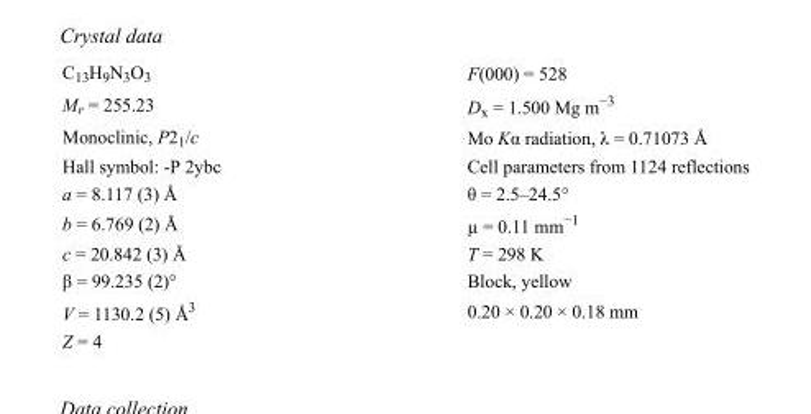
<table><tbody><tr><td>C<sub>13</sub>H<sub>9</sub>N<sub>3</sub>O<sub>3</sub></td><td>F(000) = 528</td></tr><tr><td>M<sub>r</sub> = 255.23</td><td>D<sub>x</sub> = 1.500 Mg m<sup>−3</sup></td></tr><tr><td>Monoclinic, P2<sub>1</sub>/c</td><td>Mo Kα radiation, λ = 0.71073 Å</td></tr><tr><td>Hall symbol: -P 2ybc</td><td>Cell parameters from 1124 reflections</td></tr><tr><td>a = 8.117 (3) Å</td><td>θ = 2.5–24.5°</td></tr><tr><td>b = 6.769 (2) Å</td><td>µ = 0.11 mm<sup>−1</sup></td></tr><tr><td>c = 20.842 (3) Å</td><td>T = 298 K</td></tr><tr><td>β = 99.235 (2)°</td><td>Block, yellow</td></tr><tr><td>V = 1130.2 (5) Å<sup>3</sup></td><td>0.20 × 0.20 × 0.18 mm</td></tr><tr><td>Z = 4</td><td></td></tr></tbody></table>